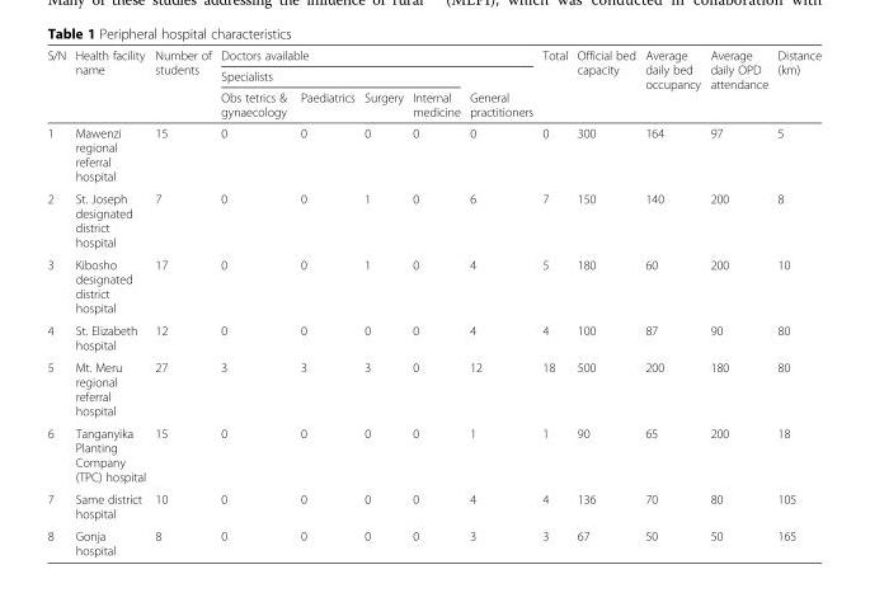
<table><thead><tr><td rowspan="3">S/N</td><td rowspan="3">Health facility name</td><td rowspan="3">Number of students</td><td colspan="5">Doctors available</td><td rowspan="3">Total</td><td rowspan="3">Official bed capacity</td><td rowspan="3">Average daily bed occupancy</td><td rowspan="3">Average daily OPD attendance</td><td rowspan="3">Distance (km)</td></tr><tr><td colspan="4">Specialists</td><td rowspan="2">General practitioners</td></tr><tr><td>Obs tetrics &amp; gynaecology</td><td>Paediatrics</td><td>Surgery</td><td>Internal medicine</td></tr></thead><tbody><tr><td>1</td><td>Mawenzi regional referral hospital</td><td>15</td><td>0</td><td>0</td><td>0</td><td>0</td><td>0</td><td>0</td><td>300</td><td>164</td><td>97</td><td>5</td></tr><tr><td>2</td><td>St. Joseph designated district hospital</td><td>7</td><td>0</td><td>0</td><td>1</td><td>0</td><td>6</td><td>7</td><td>150</td><td>140</td><td>200</td><td>8</td></tr><tr><td>3</td><td>Kibosho designated district hospital</td><td>17</td><td>0</td><td>0</td><td>1</td><td>0</td><td>4</td><td>5</td><td>180</td><td>60</td><td>200</td><td>10</td></tr><tr><td>4</td><td>St. Elizabeth hospital</td><td>12</td><td>0</td><td>0</td><td>0</td><td>0</td><td>4</td><td>4</td><td>100</td><td>87</td><td>90</td><td>80</td></tr><tr><td>5</td><td>Mt. Meru regional referral hospital</td><td>27</td><td>3</td><td>3</td><td>3</td><td>0</td><td>12</td><td>18</td><td>500</td><td>200</td><td>180</td><td>80</td></tr><tr><td>6</td><td>Tanganyika Planting Company (TPC) hospital</td><td>15</td><td>0</td><td>0</td><td>0</td><td>0</td><td>1</td><td>1</td><td>90</td><td>65</td><td>200</td><td>18</td></tr><tr><td>7</td><td>Same district hospital</td><td>10</td><td>0</td><td>0</td><td>0</td><td>0</td><td>4</td><td>4</td><td>136</td><td>70</td><td>80</td><td>105</td></tr><tr><td>8</td><td>Gonja hospital</td><td>8</td><td>0</td><td>0</td><td>0</td><td>0</td><td>3</td><td>3</td><td>67</td><td>50</td><td>50</td><td>165</td></tr></tbody></table>